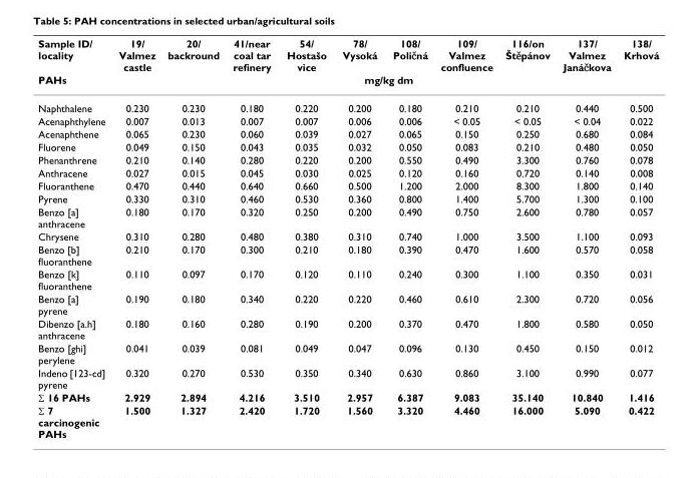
<table><thead><tr><td rowspan="2">Sample ID/ locality PAHs</td><td>19/ Valmez castle</td><td>20/ backround</td><td>41/near coal tar refinery</td><td>54/ Hostašo vice</td><td>78/ Vysoká</td><td>108/ Poličná</td><td>109/ Valmez confluence</td><td>116/on ŠtЕpánov</td><td>137/ Valmez Janáčkova</td><td>138/ Krhová</td></tr><tr><td colspan="10">mg/kg dm</td></tr></thead><tbody><tr><td>Naphthalene</td><td>0.230</td><td>0.230</td><td>0.180</td><td>0.220</td><td>0.200</td><td>0.180</td><td>0.210</td><td>0.210</td><td>0.440</td><td>0.500</td></tr><tr><td>Acenaphthylene</td><td>0.007</td><td>0.013</td><td>0.007</td><td>0.007</td><td>0.006</td><td>0.006</td><td>&lt; 0.05</td><td>&lt; 0.05</td><td>&lt; 0.04</td><td>0.022</td></tr><tr><td>Acenaphthene</td><td>0.065</td><td>0.230</td><td>0.060</td><td>0.039</td><td>0.027</td><td>0.065</td><td>0.150</td><td>0.250</td><td>0.680</td><td>0.084</td></tr><tr><td>Fluorene</td><td>0.049</td><td>0.150</td><td>0.043</td><td>0.035</td><td>0.032</td><td>0.050</td><td>0.083</td><td>0.210</td><td>0.480</td><td>0.050</td></tr><tr><td>Phenanthrene</td><td>0.210</td><td>0.140</td><td>0.280</td><td>0.220</td><td>0.200</td><td>0.550</td><td>0.490</td><td>3.300</td><td>0.760</td><td>0.078</td></tr><tr><td>Anthracene</td><td>0.027</td><td>0.015</td><td>0.045</td><td>0.030</td><td>0.025</td><td>0.120</td><td>0.160</td><td>0.720</td><td>0.140</td><td>0.008</td></tr><tr><td>Fluoranthene</td><td>0.470</td><td>0.440</td><td>0.640</td><td>0.660</td><td>0.500</td><td>1.200</td><td>2.000</td><td>8.300</td><td>1.800</td><td>0.140</td></tr><tr><td>Pyrene</td><td>0.330</td><td>0.310</td><td>0.460</td><td>0.530</td><td>0.360</td><td>0.800</td><td>1.400</td><td>5.700</td><td>1.300</td><td>0.100</td></tr><tr><td>Benzo [a] anthracene</td><td>0.180</td><td>0.170</td><td>0.320</td><td>0.250</td><td>0.200</td><td>0.490</td><td>0.750</td><td>2.600</td><td>0.780</td><td>0.057</td></tr><tr><td>Chrysene</td><td>0.310</td><td>0.280</td><td>0.480</td><td>0.380</td><td>0.310</td><td>0.740</td><td>1.000</td><td>3.500</td><td>1.100</td><td>0.093</td></tr><tr><td>Benzo [b] fluoranthene</td><td>0.210</td><td>0.170</td><td>0.300</td><td>0.210</td><td>0.180</td><td>0.390</td><td>0.470</td><td>1.600</td><td>0.570</td><td>0.058</td></tr><tr><td>Benzo [k] fluoranthene</td><td>0.110</td><td>0.097</td><td>0.170</td><td>0.120</td><td>0.110</td><td>0.240</td><td>0.300</td><td>1.100</td><td>0.350</td><td>0.031</td></tr><tr><td>Benzo [a] pyrene</td><td>0.190</td><td>0.180</td><td>0.340</td><td>0.220</td><td>0.220</td><td>0.460</td><td>0.610</td><td>2.300</td><td>0.720</td><td>0.056</td></tr><tr><td>Dibenzo [a.h] anthracene</td><td>0.180</td><td>0.160</td><td>0.280</td><td>0.190</td><td>0.200</td><td>0.370</td><td>0.470</td><td>1.800</td><td>0.580</td><td>0.050</td></tr><tr><td>Benzo [ghi] perylene</td><td>0.041</td><td>0.039</td><td>0.081</td><td>0.049</td><td>0.047</td><td>0.096</td><td>0.130</td><td>0.450</td><td>0.150</td><td>0.012</td></tr><tr><td>Indeno [123-cd] pyrene</td><td>0.320</td><td>0.270</td><td>0.530</td><td>0.350</td><td>0.340</td><td>0.630</td><td>0.860</td><td>3.100</td><td>0.990</td><td>0.077</td></tr><tr><td>Σ 16 PAHs</td><td>2.929</td><td>2.894</td><td>4.216</td><td>3.510</td><td>2.957</td><td>6.387</td><td>9.083</td><td>35.140</td><td>10.840</td><td>1.416</td></tr><tr><td>Σ 7 carcinogenic PAHs</td><td>1.500</td><td>1.327</td><td>2.420</td><td>1.720</td><td>1.560</td><td>3.320</td><td>4.460</td><td>16.000</td><td>5.090</td><td>0.422</td></tr></tbody></table>